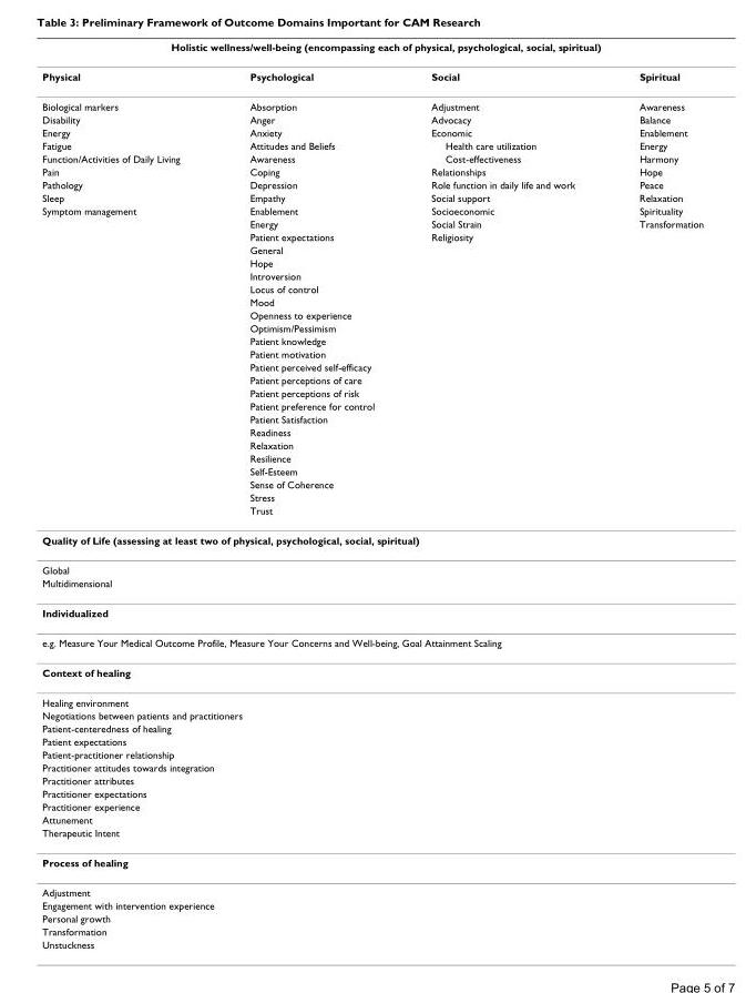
<table><thead><tr><td colspan="4">Holistic wellness/well-being (encompassing each of physical, psychological, social, spiritual)</td></tr><tr><td>Physical</td><td>Psychological</td><td>Social</td><td>Spiritual</td></tr></thead><tbody><tr><td>Biological markers</td><td>Absorption</td><td>Adjustment</td><td>Awareness</td></tr><tr><td>Disability</td><td>Anger</td><td>Advocacy</td><td>Balance</td></tr><tr><td>Energy</td><td>Anxiety</td><td>Economic</td><td>Enablement</td></tr><tr><td>Fatigue</td><td>Attitudes and Beliefs</td><td>Health care utilization</td><td>Energy</td></tr><tr><td>Function/Activities of Daily Living</td><td>Awareness</td><td>Cost-effectiveness</td><td>Harmony</td></tr><tr><td>Pain</td><td>Coping</td><td>Relationships</td><td>Hope</td></tr><tr><td>Pathology</td><td>Depression</td><td>Role function in daily life and work</td><td>Peace</td></tr><tr><td>Sleep</td><td>Empathy</td><td>Social support</td><td>Relaxation</td></tr><tr><td rowspan="24">Symptom management</td><td>Enablement</td><td>Socioeconomic</td><td>Spirituality</td></tr><tr><td>Energy</td><td>Social Strain</td><td>Transformation</td></tr><tr><td>Patient expectations</td><td>Religiosity</td><td></td></tr><tr><td>General</td><td></td><td></td></tr><tr><td>Hope</td><td></td><td></td></tr><tr><td>Introversion</td><td></td><td></td></tr><tr><td>Locus of control</td><td></td><td></td></tr><tr><td>Mood</td><td></td><td></td></tr><tr><td>Openness to experience</td><td></td><td></td></tr><tr><td>Optimism/Pessimism</td><td></td><td></td></tr><tr><td>Patient knowledge</td><td></td><td></td></tr><tr><td>Patient motivation</td><td></td><td></td></tr><tr><td>Patient perceived self-efficacy</td><td></td><td></td></tr><tr><td>Patient perceptions of care</td><td></td><td></td></tr><tr><td>Patient perceptions of risk</td><td></td><td></td></tr><tr><td>Patient preference for control</td><td></td><td></td></tr><tr><td>Patient Satisfaction</td><td></td><td></td></tr><tr><td>Readiness</td><td></td><td></td></tr><tr><td>Relaxation</td><td></td><td></td></tr><tr><td>Resilience</td><td></td><td></td></tr><tr><td>Self-Esteem</td><td></td><td></td></tr><tr><td>Sense of Coherence</td><td></td><td></td></tr><tr><td>Stress</td><td></td><td></td></tr><tr><td>Trust</td><td></td><td></td></tr><tr><td colspan="4">Quality of Life (assessing at least two of physical, psychological, social, spiritual)</td></tr><tr><td colspan="4">Global</td></tr><tr><td colspan="4">Multidimensional</td></tr><tr><td colspan="4">Individualized</td></tr><tr><td colspan="4">e.g. Measure Your Medical Outcome Profile, Measure Your Concerns and Well-being, Goal Attainment Scaling</td></tr><tr><td colspan="4">Context of healing</td></tr><tr><td colspan="4">Healing environment</td></tr><tr><td colspan="4">Negotiations between patients and practitioners</td></tr><tr><td colspan="4">Patient-centeredness of healing</td></tr><tr><td colspan="4">Patient expectations</td></tr><tr><td colspan="4">Patient-practitioner relationship</td></tr><tr><td colspan="4">Practitioner attitudes towards integration</td></tr><tr><td colspan="4">Practitioner attributes</td></tr><tr><td colspan="4">Practitioner expectations</td></tr><tr><td colspan="4">Practitioner experience</td></tr><tr><td colspan="4">Attunement</td></tr><tr><td colspan="4">Therapeutic Intent</td></tr><tr><td colspan="4">Process of healing</td></tr><tr><td colspan="4">Adjustment</td></tr><tr><td colspan="4">Engagement with intervention experience</td></tr><tr><td colspan="4">Personal growth</td></tr><tr><td colspan="4">Transformation</td></tr><tr><td colspan="4">Unstuckness</td></tr></tbody></table>